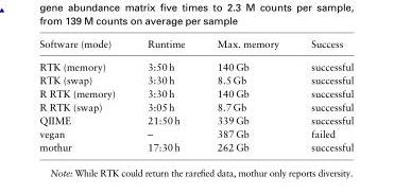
<table><thead><tr><td>Software (mode)</td><td>Runtime</td><td>Max. memory</td><td>Success</td></tr></thead><tbody><tr><td>RTK (memory)</td><td>3:50 h</td><td>140 Gb</td><td>successful</td></tr><tr><td>RTK (swap)</td><td>3:30 h</td><td>8.5 Gb</td><td>successful</td></tr><tr><td>R RTK (memory)</td><td>3:30 h</td><td>140 Gb</td><td>successful</td></tr><tr><td>R RTK (swap)</td><td>3:05 h</td><td>8.7 Gb</td><td>successful</td></tr><tr><td>QIIME</td><td>21:50 h</td><td>339 Gb</td><td>successful</td></tr><tr><td>vegan</td><td>–</td><td>387 Gb</td><td>failed</td></tr><tr><td>mothur</td><td>17:30 h</td><td>262 Gb</td><td>successful</td></tr></tbody></table>